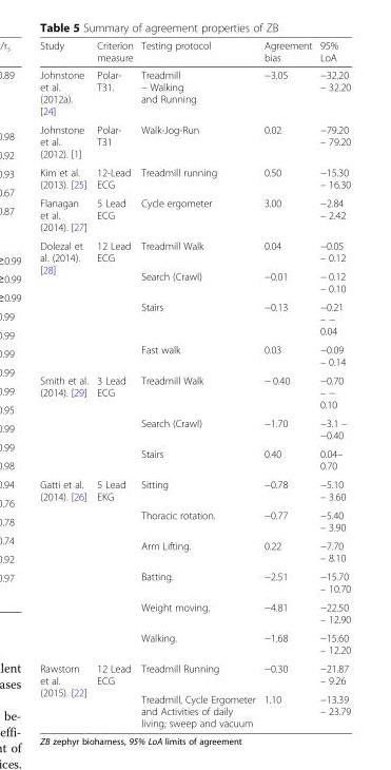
<table><thead><tr><td>Study</td><td>Criterion measure</td><td>Testing protocol</td><td>Agreement bias</td><td>95% LoA</td></tr></thead><tbody><tr><td>Johnstone et al. (2012a). [24]</td><td>Polar- T31.</td><td>Treadmill – Walking and Running</td><td>−3.05</td><td>−32.20 – 32.20</td></tr><tr><td>Johnstone et al. (2012). [1]</td><td>Polar- T31</td><td>Walk-Jog-Run</td><td>0.02</td><td>−79.20 – 79.20</td></tr><tr><td>Kim et al. (2013). [25]</td><td>12-Lead ECG</td><td>Treadmill running</td><td>0.50</td><td>−15.30 – 16.30</td></tr><tr><td>Flanagan et al. (2014). [27]</td><td>5 Lead ECG</td><td>Cycle ergometer</td><td>3.00</td><td>−2.84 – 2.42</td></tr><tr><td rowspan="4">Dolezal et al. (2014). [28]</td><td rowspan="4">12 Lead ECG</td><td>Treadmill Walk</td><td>0.04</td><td>−0.05 – 0.12</td></tr><tr><td>Search (Crawl)</td><td>−0.01</td><td>− 0.12 – 0.10</td></tr><tr><td>Stairs</td><td>−0.13</td><td>−0.21 – − 0.04</td></tr><tr><td>Fast walk</td><td>0.03</td><td>−0.09 – 0.14</td></tr><tr><td rowspan="3">Smith et al. (2014). [29]</td><td rowspan="3">3 Lead ECG</td><td>Treadmill Walk</td><td>− 0.40</td><td>−0.70 – − 0.10</td></tr><tr><td>Search (Crawl)</td><td>−1.70</td><td>−3.1 – −0.40</td></tr><tr><td>Stairs</td><td>0.40</td><td>0.04– 0.70</td></tr><tr><td rowspan="6">Gatti et al. (2014). [26]</td><td rowspan="6">5 Lead EKG</td><td>Sitting</td><td>−0.78</td><td>−5.10 – 3.60</td></tr><tr><td>Thoracic rotation.</td><td>−0.77</td><td>−5.40 – 3.90</td></tr><tr><td>Arm Lifting.</td><td>0.22</td><td>−7.70 – 8.10</td></tr><tr><td>Batting.</td><td>−2.51</td><td>−15.70 – 10.70</td></tr><tr><td>Weight moving.</td><td>−4.81</td><td>−22.50 – 12.90</td></tr><tr><td>Walking.</td><td>−1.68</td><td>−15.60 – 12.20</td></tr><tr><td rowspan="2">Rawstorn et al. (2015). [22]</td><td rowspan="2">12 Lead ECG</td><td>Treadmill Running</td><td>−0.30</td><td>−21.87 – 9.26</td></tr><tr><td>Treadmill, Cycle Ergometer and Activities of daily living; sweep and vacuum</td><td>1.10</td><td>−13.39 – 23.79</td></tr></tbody></table>